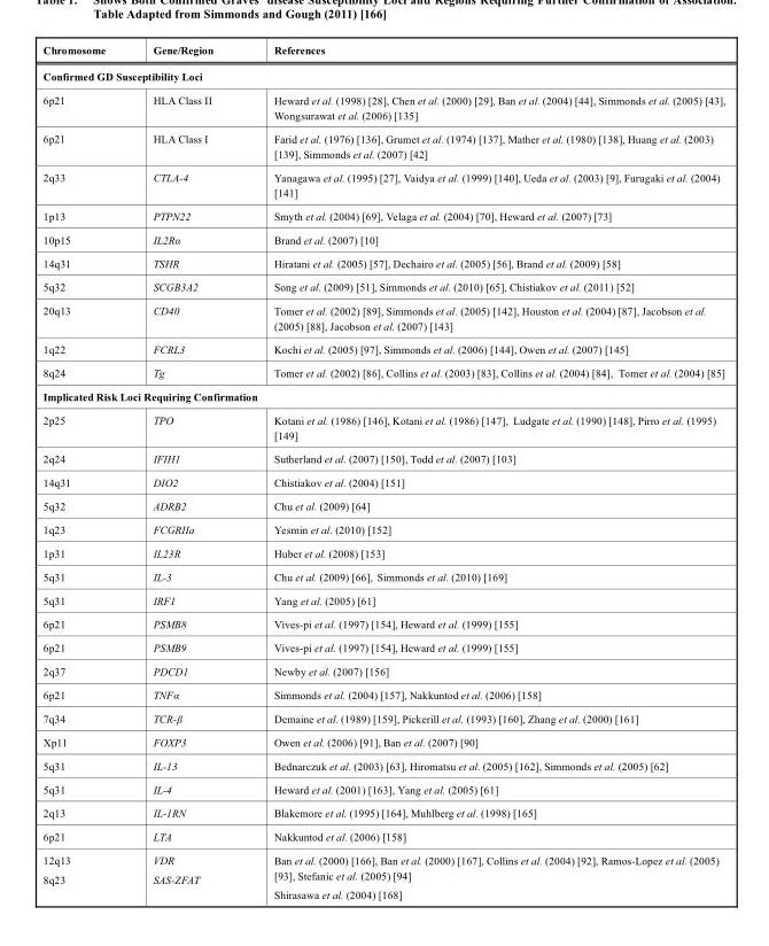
<table><thead><tr><td>Chromosome</td><td>Gene/Region</td><td>References</td></tr></thead><tbody><tr><td colspan="3">Confirmed GD Susceptibility Loci</td></tr><tr><td>6p21</td><td>HLA Class II</td><td>Heward et al. (1998) [28], Chen et al. (2000) [29], Ban et al. (2004) [44], Simmonds et al. (2005) [43], Wongsurawat et al. (2006) [135]</td></tr><tr><td>6p21</td><td>HLA Class I</td><td>Farid et al. (1976) [136], Grumet et al. (1974) [137], Mather et al. (1980) [138], Huang et al. (2003) [139], Simmonds et al. (2007) [42]</td></tr><tr><td>2q33</td><td>CTLA-4</td><td>Yanagawa et al. (1995) [27], Vaidya et al. (1999) [140], Ueda et al. (2003) [9], Furugaki et al. (2004) [141]</td></tr><tr><td>1p13</td><td>PTPN22</td><td>Smyth et al. (2004) [69], Velaga et al. (2004) [70], Heward et al. (2007) [73]</td></tr><tr><td>10p15</td><td>IL2Rα</td><td>Brand et al. (2007) [10]</td></tr><tr><td>14q31</td><td>TSHR</td><td>Hiratani et al. (2005) [57], Dechairo et al. (2005) [56], Brand et al. (2009) [58]</td></tr><tr><td>5q32</td><td>SCGB3A2</td><td>Song et al. (2009) [51], Simmonds et al. (2010) [65], Chistiakov et al. (2011) [52]</td></tr><tr><td>20q13</td><td>CD40</td><td>Tomer et al. (2002) [89], Simmonds et al. (2005) [142], Houston et al. (2004) [87], Jacobson et al. (2005) [88], Jacobson et al. (2007) [143]</td></tr><tr><td>1q22</td><td>FCRL3</td><td>Kochi et al. (2005) [97], Simmonds et al. (2006) [144], Owen et al. (2007) [145]</td></tr><tr><td>8q24</td><td>Tg</td><td>Tomer et al. (2002) [86], Collins et al. (2003) [83], Collins et al. (2004) [84], Tomer et al. (2004) [85]</td></tr><tr><td colspan="3">Implicated Risk Loci Requiring Confirmation</td></tr><tr><td>2p25</td><td>TPO</td><td>Kotani et al. (1986) [146], Kotani et al. (1986) [147], Ludgate et al. (1990) [148], Pirro et al. (1995) [149]</td></tr><tr><td>2q24</td><td>IFIH1</td><td>Sutherland et al. (2007) [150], Todd et al. (2007) [103]</td></tr><tr><td>14q31</td><td>DIO2</td><td>Chistiakov et al. (2004) [151]</td></tr><tr><td>5q32</td><td>ADRB2</td><td>Chu et al. (2009) [64]</td></tr><tr><td>1q23</td><td>FCGRIIa</td><td>Yesmin et al. (2010) [152]</td></tr><tr><td>1p31</td><td>IL23R</td><td>Huber et al. (2008) [153]</td></tr><tr><td>5q31</td><td>IL-3</td><td>Chu et al. (2009) [66], Simmonds et al. (2010) [169]</td></tr><tr><td>5q31</td><td>IRF1</td><td>Yang et al. (2005) [61]</td></tr><tr><td>6p21</td><td>PSMB8</td><td>Vives-pi et al. (1997) [154], Heward et al. (1999) [155]</td></tr><tr><td>6p21</td><td>PSMB9</td><td>Vives-pi et al. (1997) [154], Heward et al. (1999) [155]</td></tr><tr><td>2q37</td><td>PDCD1</td><td>Newby et al. (2007) [156]</td></tr><tr><td>6p21</td><td>TNFα</td><td>Simmonds et al. (2004) [157], Nakkuntod et al. (2006) [158]</td></tr><tr><td>7q34</td><td>TCR-β</td><td>Demaine et al. (1989) [159], Pickerill et al. (1993) [160], Zhang et al. (2000) [161]</td></tr><tr><td>Xp11</td><td>FOXP3</td><td>Owen et al. (2006) [91], Ban et al. (2007) [90]</td></tr><tr><td>5q31</td><td>IL-13</td><td>Bednarczuk et al. (2003) [63], Hiromatsu et al. (2005) [162], Simmonds et al. (2005) [62]</td></tr><tr><td>5q31</td><td>IL-4</td><td>Heward et al. (2001) [163], Yang et al. (2005) [61]</td></tr><tr><td>2q13</td><td>IL-1RN</td><td>Blakemore et al. (1995) [164], Muhlberg et al. (1998) [165]</td></tr><tr><td>6p21</td><td>LTA</td><td>Nakkuntod et al. (2006) [158]</td></tr><tr><td>12q13 8q23</td><td>VDR SAS-ZFAT</td><td>Ban et al. (2000) [166], Ban et al. (2000) [167], Collins et al. (2004) [92], Ramos-Lopez et al. (2005) [93], Stefanic et al. (2005) [94] Shirasawa et al. (2004) [168]</td></tr></tbody></table>